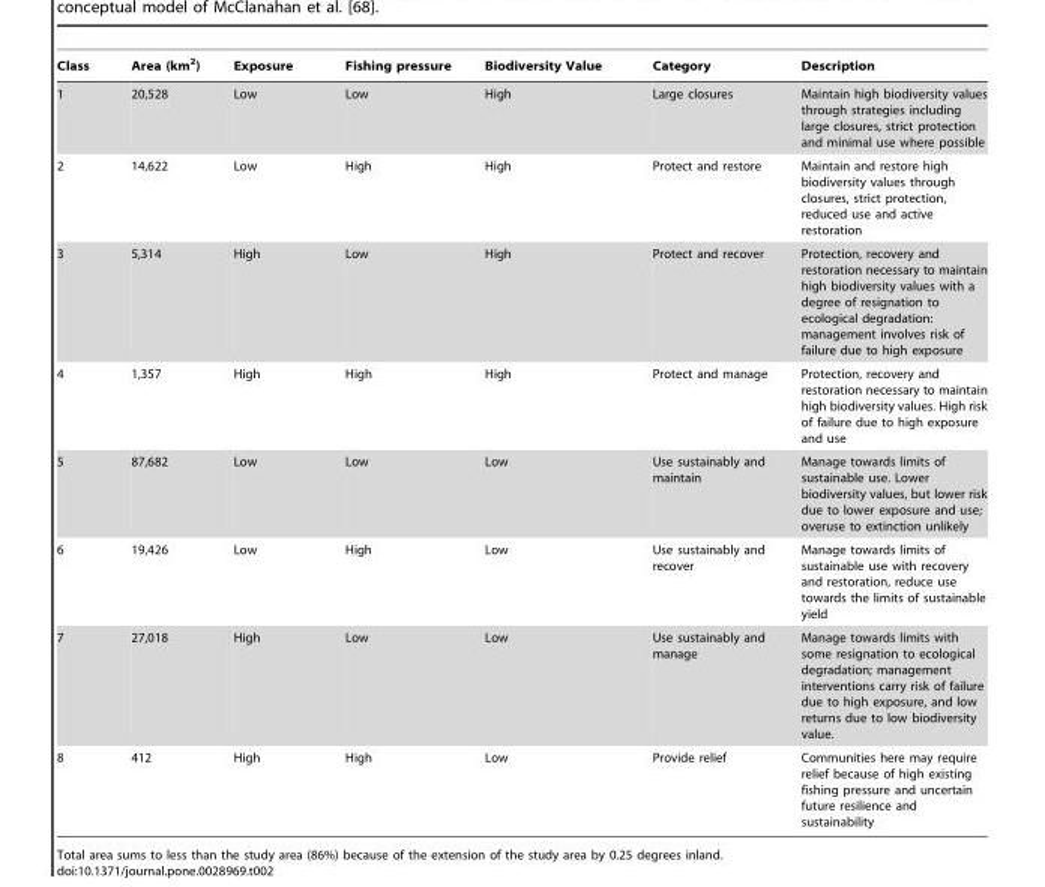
<table><thead><tr><td>Class</td><td>Area (km<sup>2</sup>)</td><td>Exposure</td><td>Fishing pressure</td><td>Biodiversity Value</td><td>Category</td><td>Description</td></tr></thead><tbody><tr><td>1</td><td>20,528</td><td>Low</td><td>Low</td><td>High</td><td>Large closures</td><td>Maintain high biodiversity values through strategies including large closures, strict protection and minimal use where possible</td></tr><tr><td>2</td><td>14,622</td><td>Low</td><td>High</td><td>High</td><td>Protect and restore</td><td>Maintain and restore high biodiversity values through closures, strict protection, reduced use and active restoration</td></tr><tr><td>3</td><td>5,314</td><td>High</td><td>Low</td><td>High</td><td>Protect and recover</td><td>Protection, recovery and restoration necessary to maintain high biodiversity values with a degree of resignation to ecological degradation: management involves risk of failure due to high exposure</td></tr><tr><td>4</td><td>1,357</td><td>High</td><td>High</td><td>High</td><td>Protect and manage</td><td>Protection, recovery and restoration necessary to maintain high biodiversity values. High risk of failure due to high exposure and use</td></tr><tr><td>5</td><td>87,682</td><td>Low</td><td>Low</td><td>Low</td><td>Use sustainably and maintain</td><td>Manage towards limits of sustainable use. Lower biodiversity values, but lower risk due to lower exposure and use; overuse to extinction unlikely</td></tr><tr><td>6</td><td>19,426</td><td>Low</td><td>High</td><td>Low</td><td>Use sustainably and recover</td><td>Manage towards limits of sustainable use with recovery and restoration, reduce use towards the limits of sustainable yield</td></tr><tr><td>7</td><td>27,018</td><td>High</td><td>Low</td><td>Low</td><td>Use sustainably and manage</td><td>Manage towards limits with some resignation to ecological degradation; management interventions carry risk of failure due to high exposure, and low returns due to low biodiversity value.</td></tr><tr><td>8</td><td>412</td><td>High</td><td>High</td><td>Low</td><td>Provide relief</td><td>Communities here may require relief because of high existing fishing pressure and uncertain future resilience and sustainability</td></tr></tbody></table>